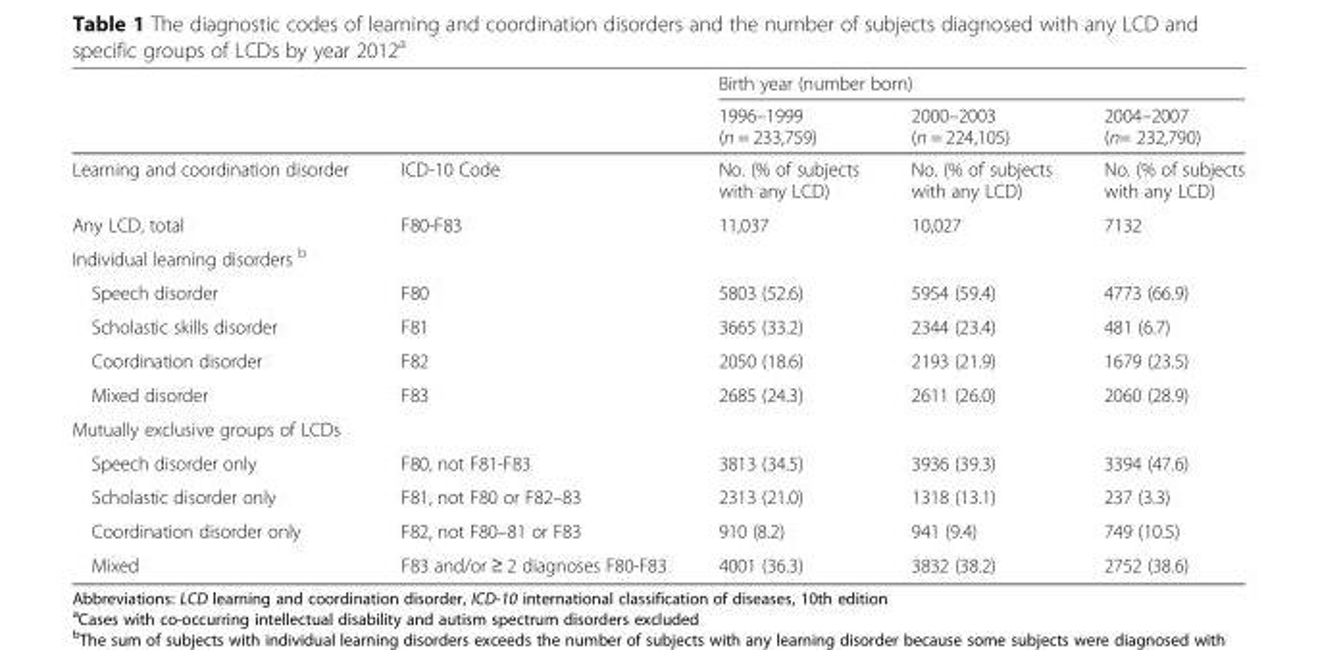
<table><thead><tr><td rowspan="2"></td><td rowspan="2"></td><td colspan="3">Birth year (number born)</td></tr><tr><td>1996–1999 (n = 233,759)</td><td>2000–2003 (n = 224,105)</td><td>2004–2007 (n= 232,790)</td></tr></thead><tbody><tr><td>Learning and coordination disorder</td><td>ICD-10 Code</td><td>No. (% of subjects with any LCD)</td><td>No. (% of subjects with any LCD)</td><td>No. (% of subjects with any LCD)</td></tr><tr><td>Any LCD, total</td><td>F80-F83</td><td>11,037</td><td>10,027</td><td>7132</td></tr><tr><td colspan="5">Individual learning disorders <sup>b</sup></td></tr><tr><td>Speech disorder</td><td>F80</td><td>5803 (52.6)</td><td>5954 (59.4)</td><td>4773 (66.9)</td></tr><tr><td>Scholastic skills disorder</td><td>F81</td><td>3665 (33.2)</td><td>2344 (23.4)</td><td>481 (6.7)</td></tr><tr><td>Coordination disorder</td><td>F82</td><td>2050 (18.6)</td><td>2193 (21.9)</td><td>1679 (23.5)</td></tr><tr><td>Mixed disorder</td><td>F83</td><td>2685 (24.3)</td><td>2611 (26.0)</td><td>2060 (28.9)</td></tr><tr><td colspan="5">Mutually exclusive groups of LCDs</td></tr><tr><td>Speech disorder only</td><td>F80, not F81-F83</td><td>3813 (34.5)</td><td>3936 (39.3)</td><td>3394 (47.6)</td></tr><tr><td>Scholastic disorder only</td><td>F81, not F80 or F82–83</td><td>2313 (21.0)</td><td>1318 (13.1)</td><td>237 (3.3)</td></tr><tr><td>Coordination disorder only</td><td>F82, not F80–81 or F83</td><td>910 (8.2)</td><td>941 (9.4)</td><td>749 (10.5)</td></tr><tr><td>Mixed</td><td>F83 and/or ≥ 2 diagnoses F80-F83</td><td>4001 (36.3)</td><td>3832 (38.2)</td><td>2752 (38.6)</td></tr></tbody></table>